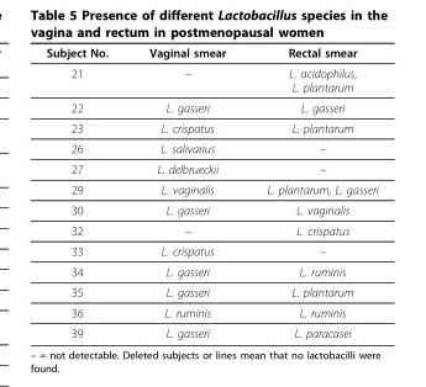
<table><thead><tr><td>Subject No.</td><td>Vaginal smear</td><td>Rectal smear</td></tr></thead><tbody><tr><td>21</td><td>–</td><td>L. acidophilus, L. plantarum</td></tr><tr><td>22</td><td>L. gasseri</td><td>L. gasseri</td></tr><tr><td>23</td><td>L. crispatus</td><td>L. plantarum</td></tr><tr><td>26</td><td>L. salivarius</td><td>–</td></tr><tr><td>27</td><td>L. delbrueckii</td><td>–</td></tr><tr><td>29</td><td>L. vaginalis</td><td>L. plantarum, L. gasseri</td></tr><tr><td>30</td><td>L. gasseri</td><td>L. vaginalis</td></tr><tr><td>32</td><td>–</td><td>L. crispatus</td></tr><tr><td>33</td><td>L. crispatus</td><td>–</td></tr><tr><td>34</td><td>L. gasseri</td><td>L. ruminis</td></tr><tr><td>35</td><td>L. gasseri</td><td>L. plantarum</td></tr><tr><td>36</td><td>L. ruminis</td><td>L. ruminis</td></tr><tr><td>39</td><td>L. gasseri</td><td>L. paracasei</td></tr></tbody></table>